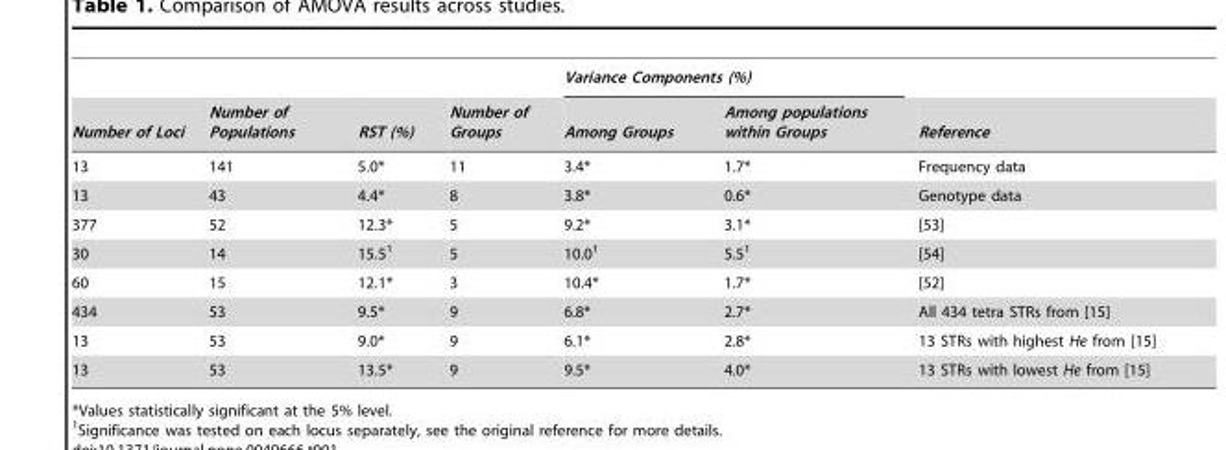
<table><thead><tr><td rowspan="2">Number of Loci</td><td rowspan="2">Number of Populations</td><td rowspan="2">RST (%)</td><td rowspan="2">Number of Groups</td><td colspan="2">Variance Components (%)</td><td rowspan="2">Reference</td></tr><tr><td>Among Groups</td><td>Among populations within Groups</td></tr></thead><tbody><tr><td>13</td><td>141</td><td>5.0*</td><td>11</td><td>3.4*</td><td>1.7*</td><td>Frequency data</td></tr><tr><td>13</td><td>43</td><td>4.4*</td><td>8</td><td>3.8*</td><td>0.6*</td><td>Genotype data</td></tr><tr><td>377</td><td>52</td><td>12.3*</td><td>5</td><td>9.2*</td><td>3.1*</td><td>[53]</td></tr><tr><td>30</td><td>14</td><td>15.5<sup>1</sup></td><td>5</td><td>10.0<sup>1</sup></td><td>5.5<sup>1</sup></td><td>[54]</td></tr><tr><td>60</td><td>15</td><td>12.1*</td><td>3</td><td>10.4*</td><td>1.7*</td><td>[52]</td></tr><tr><td>434</td><td>53</td><td>9.5*</td><td>9</td><td>6.8*</td><td>2.7*</td><td>All 434 tetra STRs from [15]</td></tr><tr><td>13</td><td>53</td><td>9.0*</td><td>9</td><td>6.1*</td><td>2.8*</td><td>13 STRs with highest He from [15]</td></tr><tr><td>13</td><td>53</td><td>13.5*</td><td>9</td><td>9.5*</td><td>4.0*</td><td>13 STRs with lowest He from [15]</td></tr></tbody></table>